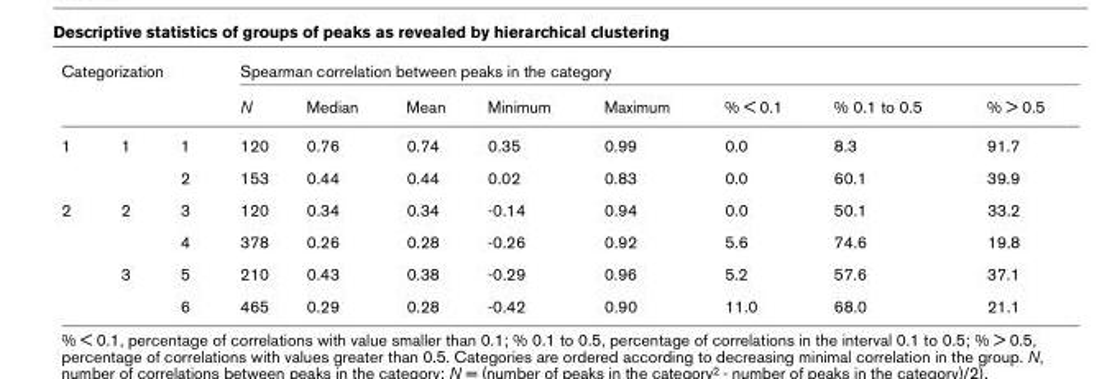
<table><thead><tr><td colspan="3">Categorization</td><td colspan="8">Spearman correlation between peaks in the category</td></tr><tr><td></td><td></td><td></td><td>N</td><td>Median</td><td>Mean</td><td>Minimum</td><td>Maximum</td><td>% &lt; 0.1</td><td>% 0.1 to 0.5</td><td>% &gt; 0.5</td></tr></thead><tbody><tr><td rowspan="2">1</td><td>1</td><td>1</td><td>120</td><td>0.76</td><td>0.74</td><td>0.35</td><td>0.99</td><td>0.0</td><td>8.3</td><td>91.7</td></tr><tr><td></td><td>2</td><td>153</td><td>0.44</td><td>0.44</td><td>0.02</td><td>0.83</td><td>0.0</td><td>60.1</td><td>39.9</td></tr><tr><td rowspan="4">2</td><td>2</td><td>3</td><td>120</td><td>0.34</td><td>0.34</td><td>-0.14</td><td>0.94</td><td>0.0</td><td>50.1</td><td>33.2</td></tr><tr><td></td><td>4</td><td>378</td><td>0.26</td><td>0.28</td><td>-0.26</td><td>0.92</td><td>5.6</td><td>74.6</td><td>19.8</td></tr><tr><td>3</td><td>5</td><td>210</td><td>0.43</td><td>0.38</td><td>-0.29</td><td>0.96</td><td>5.2</td><td>57.6</td><td>37.1</td></tr><tr><td></td><td>6</td><td>465</td><td>0.29</td><td>0.28</td><td>-0.42</td><td>0.90</td><td>11.0</td><td>68.0</td><td>21.1</td></tr></tbody></table>